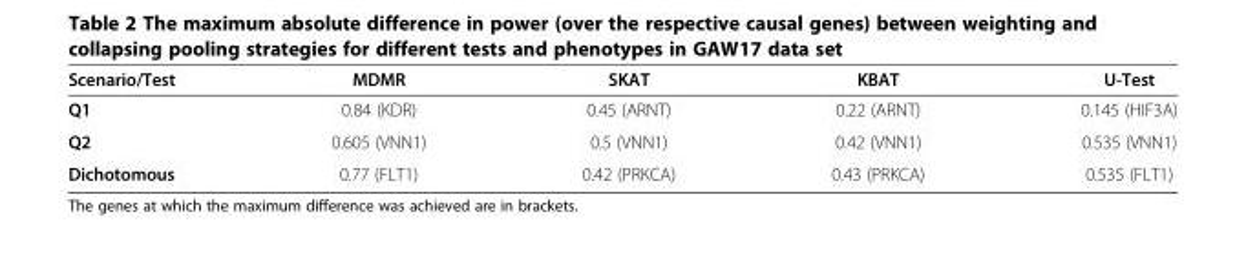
<table><thead><tr><td>Scenario/Test</td><td>MDMR</td><td>SKAT</td><td>KBAT</td><td>U-Test</td></tr></thead><tbody><tr><td>Q1</td><td>0.84 (KDR)</td><td>0.45 (ARNT)</td><td>0.22 (ARNT)</td><td>0.145 (HIF3A)</td></tr><tr><td>Q2</td><td>0.605 (VNN1)</td><td>0.5 (VNN1)</td><td>0.42 (VNN1)</td><td>0.535 (VNN1)</td></tr><tr><td>Dichotomous</td><td>0.77 (FLT1)</td><td>0.42 (PRKCA)</td><td>0.43 (PRKCA)</td><td>0.535 (FLT1)</td></tr></tbody></table>